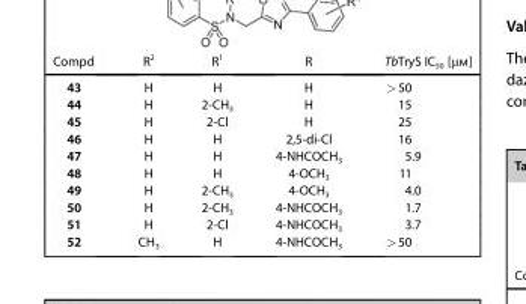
<table><thead><tr><td>Compd</td><td>R<sup>2</sup></td><td>R<sup>1</sup></td><td>R</td><td>TbTryS IC<sub>50</sub> [μm]</td></tr></thead><tbody><tr><td>43</td><td>H</td><td>H</td><td>H</td><td>&gt;50</td></tr><tr><td>44</td><td>H</td><td>2-CH<sub>3</sub></td><td>H</td><td>15</td></tr><tr><td>45</td><td>H</td><td>2-Cl</td><td>H</td><td>25</td></tr><tr><td>46</td><td>H</td><td>H</td><td>2,5-di-Cl</td><td>16</td></tr><tr><td>47</td><td>H</td><td>H</td><td>4-NHCOCH<sub>3</sub></td><td>5.9</td></tr><tr><td>48</td><td>H</td><td>H</td><td>4-OCH<sub>3</sub></td><td>11</td></tr><tr><td>49</td><td>H</td><td>2-CH<sub>3</sub></td><td>4-OCH<sub>3</sub></td><td>4.0</td></tr><tr><td>50</td><td>H</td><td>2-CH<sub>3</sub></td><td>4-NHCOCH<sub>3</sub></td><td>1.7</td></tr><tr><td>51</td><td>H</td><td>2-Cl</td><td>4-NHCOCH<sub>3</sub></td><td>3.7</td></tr><tr><td>52</td><td>CH<sub>3</sub></td><td>H</td><td>4-NHCOCH<sub>3</sub></td><td>&gt;50</td></tr></tbody></table>